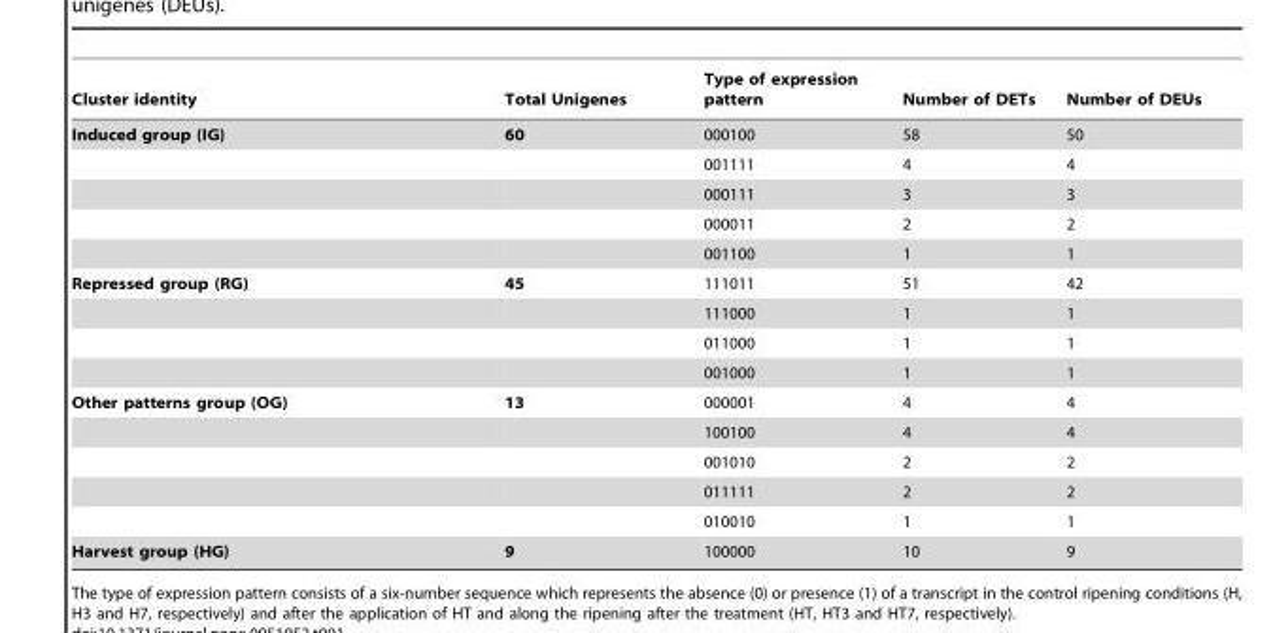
<table><thead><tr><td>Cluster identity</td><td>Total Unigenes</td><td>Type of expression pattern</td><td>Number of DETs</td><td>Number of DEUs</td></tr></thead><tbody><tr><td rowspan="5">Induced group (IG)</td><td>60</td><td>000100</td><td>58</td><td>50</td></tr><tr><td></td><td>001111</td><td>4</td><td>4</td></tr><tr><td></td><td>000111</td><td>3</td><td>3</td></tr><tr><td></td><td>000011</td><td>2</td><td>2</td></tr><tr><td></td><td>001100</td><td>1</td><td>1</td></tr><tr><td rowspan="4">Repressed group (RG)</td><td>45</td><td>111011</td><td>51</td><td>42</td></tr><tr><td></td><td>111000</td><td>1</td><td>1</td></tr><tr><td></td><td>011000</td><td>1</td><td>1</td></tr><tr><td></td><td>001000</td><td>1</td><td>1</td></tr><tr><td rowspan="5">Other patterns group (OG)</td><td>13</td><td>000001</td><td>4</td><td>4</td></tr><tr><td></td><td>100100</td><td>4</td><td>4</td></tr><tr><td></td><td>001010</td><td>2</td><td>2</td></tr><tr><td></td><td>011111</td><td>2</td><td>2</td></tr><tr><td></td><td>010010</td><td>1</td><td>1</td></tr><tr><td>Harvest group (HG)</td><td>9</td><td>100000</td><td>10</td><td>9</td></tr></tbody></table>